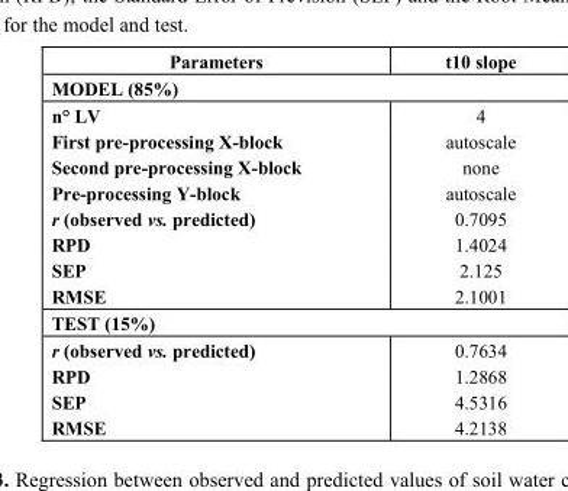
<table><thead><tr><td>Parameters</td><td>t10 slope</td></tr></thead><tbody><tr><td colspan="2">MODEL (85%)</td></tr><tr><td>n° LV</td><td>4</td></tr><tr><td>First pre-processing X-block</td><td>autoscale</td></tr><tr><td>Second pre-processing X-block</td><td>none</td></tr><tr><td>Pre-processing Y-block</td><td>autoscale</td></tr><tr><td>r (observed vs. predicted)</td><td>0.7095</td></tr><tr><td>RPD</td><td>1.4024</td></tr><tr><td>SEP</td><td>2.125</td></tr><tr><td>RMSE</td><td>2.1001</td></tr><tr><td colspan="2">TEST (15%)</td></tr><tr><td>r (observed vs. predicted)</td><td>0.7634</td></tr><tr><td>RPD</td><td>1.2868</td></tr><tr><td>SEP</td><td>4.5316</td></tr><tr><td>RMSE</td><td>4.2138</td></tr></tbody></table>